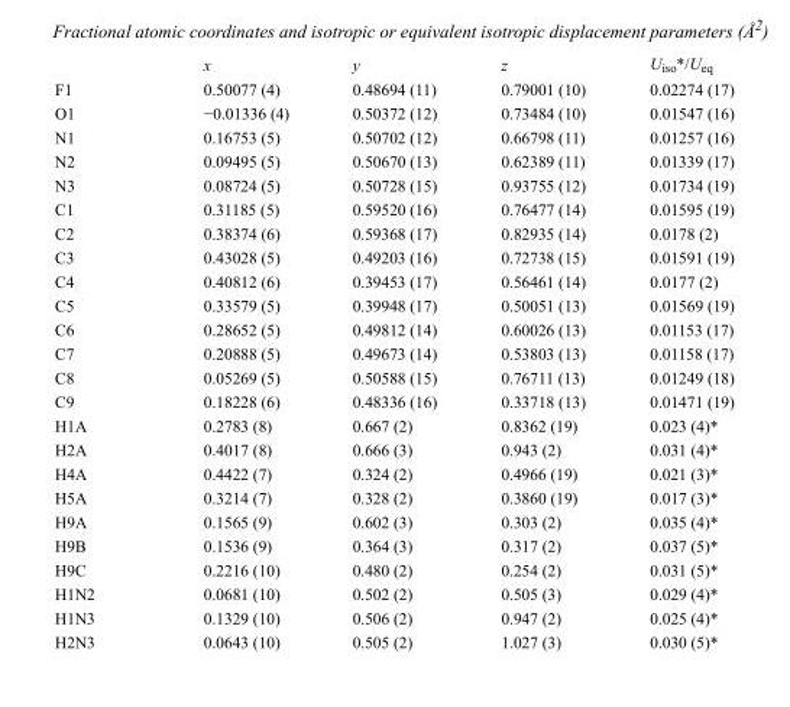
<table><thead><tr><td></td><td>x</td><td>y</td><td>z</td><td>U<sub>iso</sub>*/U<sub>eq</sub></td></tr></thead><tbody><tr><td>F1</td><td>0.50077 (4)</td><td>0.48694 (11)</td><td>0.79001 (10)</td><td>0.02274 (17)</td></tr><tr><td>O1</td><td>−0.01336 (4)</td><td>0.50372 (12)</td><td>0.73484 (10)</td><td>0.01547 (16)</td></tr><tr><td>N1</td><td>0.16753 (5)</td><td>0.50702 (12)</td><td>0.66798 (11)</td><td>0.01257 (16)</td></tr><tr><td>N2</td><td>0.09495 (5)</td><td>0.50670 (13)</td><td>0.62389 (11)</td><td>0.01339 (17)</td></tr><tr><td>N3</td><td>0.08724 (5)</td><td>0.50728 (15)</td><td>0.93755 (12)</td><td>0.01734 (19)</td></tr><tr><td>C1</td><td>0.31185 (5)</td><td>0.59520 (16)</td><td>0.76477 (14)</td><td>0.01595 (19)</td></tr><tr><td>C2</td><td>0.38374 (6)</td><td>0.59368 (17)</td><td>0.82935 (14)</td><td>0.0178 (2)</td></tr><tr><td>C3</td><td>0.43028 (5)</td><td>0.49203 (16)</td><td>0.72738 (15)</td><td>0.01591 (19)</td></tr><tr><td>C4</td><td>0.40812 (6)</td><td>0.39453 (17)</td><td>0.56461 (14)</td><td>0.0177 (2)</td></tr><tr><td>C5</td><td>0.33579 (5)</td><td>0.39948 (17)</td><td>0.50051 (13)</td><td>0.01569 (19)</td></tr><tr><td>C6</td><td>0.28652 (5)</td><td>0.49812 (14)</td><td>0.60026 (13)</td><td>0.01153 (17)</td></tr><tr><td>C7</td><td>0.20888 (5)</td><td>0.49673 (14)</td><td>0.53803 (13)</td><td>0.01158 (17)</td></tr><tr><td>C8</td><td>0.05269 (5)</td><td>0.50588 (15)</td><td>0.76711 (13)</td><td>0.01249 (18)</td></tr><tr><td>C9</td><td>0.18228 (6)</td><td>0.48336 (16)</td><td>0.33718 (13)</td><td>0.01471 (19)</td></tr><tr><td>H1A</td><td>0.2783 (8)</td><td>0.667 (2)</td><td>0.8362 (19)</td><td>0.023 (4)*</td></tr><tr><td>H2A</td><td>0.4017 (8)</td><td>0.666 (3)</td><td>0.943 (2)</td><td>0.031 (4)*</td></tr><tr><td>H4A</td><td>0.4422 (7)</td><td>0.324 (2)</td><td>0.4966 (19)</td><td>0.021 (3)*</td></tr><tr><td>H5A</td><td>0.3214 (7)</td><td>0.328 (2)</td><td>0.3860 (19)</td><td>0.017 (3)*</td></tr><tr><td>H9A</td><td>0.1565 (9)</td><td>0.602 (3)</td><td>0.303 (2)</td><td>0.035 (4)*</td></tr><tr><td>H9B</td><td>0.1536 (9)</td><td>0.364 (3)</td><td>0.317 (2)</td><td>0.037 (5)*</td></tr><tr><td>H9C</td><td>0.2216 (10)</td><td>0.480 (2)</td><td>0.254 (2)</td><td>0.031 (5)*</td></tr><tr><td>H1N2</td><td>0.0681 (10)</td><td>0.502 (2)</td><td>0.505 (3)</td><td>0.029 (4)*</td></tr><tr><td>H1N3</td><td>0.1329 (10)</td><td>0.506 (2)</td><td>0.947 (2)</td><td>0.025 (4)*</td></tr><tr><td>H2N3</td><td>0.0643 (10)</td><td>0.505 (2)</td><td>1.027 (3)</td><td>0.030 (5)*</td></tr></tbody></table>